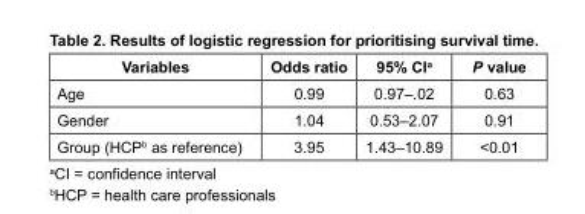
<table><thead><tr><td>Variables</td><td>Odds ratio</td><td>95% CI<sup>a</sup></td><td>P value</td></tr></thead><tbody><tr><td>Age</td><td>0.99</td><td>0.97–.02</td><td>0.63</td></tr><tr><td>Gender</td><td>1.04</td><td>0.53–2.07</td><td>0.91</td></tr><tr><td>Group (HCP<sup>b</sup> as reference)</td><td>3.95</td><td>1.43–10.89</td><td>&lt;0.01</td></tr></tbody></table>